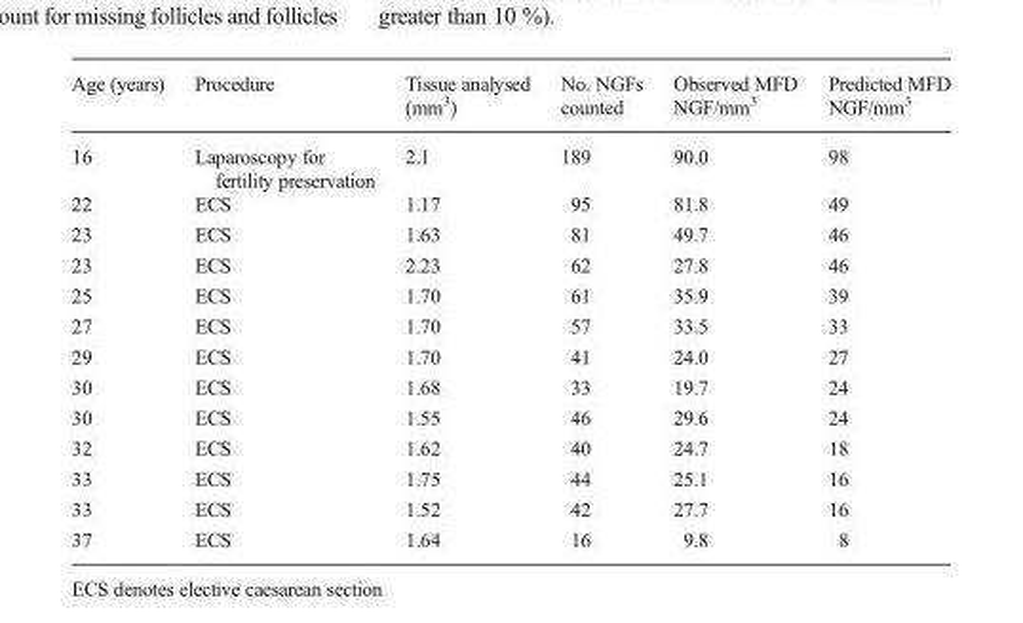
<table><thead><tr><td>Age (years)</td><td>Procedure</td><td>Tissue analysed (mm<sup>3</sup>)</td><td>No. NGFs counted</td><td>Observed MFD NGF/mm<sup>3</sup></td><td>Predicted MFD NGF/mm<sup>3</sup></td></tr></thead><tbody><tr><td>16</td><td>Laparoscopy for fertility preservation</td><td>2.1</td><td>189</td><td>90.0</td><td>98</td></tr><tr><td>22</td><td>ECS</td><td>1.17</td><td>95</td><td>81.8</td><td>49</td></tr><tr><td>23</td><td>ECS</td><td>1.63</td><td>81</td><td>49.7</td><td>46</td></tr><tr><td>23</td><td>ECS</td><td>2.23</td><td>62</td><td>27.8</td><td>46</td></tr><tr><td>25</td><td>ECS</td><td>1.70</td><td>61</td><td>35.9</td><td>39</td></tr><tr><td>27</td><td>ECS</td><td>1.70</td><td>57</td><td>33.5</td><td>33</td></tr><tr><td>29</td><td>ECS</td><td>1.70</td><td>41</td><td>24.0</td><td>27</td></tr><tr><td>30</td><td>ECS</td><td>1.68</td><td>33</td><td>19.7</td><td>24</td></tr><tr><td>30</td><td>ECS</td><td>1.55</td><td>46</td><td>29.6</td><td>24</td></tr><tr><td>32</td><td>ECS</td><td>1.62</td><td>40</td><td>24.7</td><td>18</td></tr><tr><td>33</td><td>ECS</td><td>1.75</td><td>44</td><td>25.1</td><td>16</td></tr><tr><td>33</td><td>ECS</td><td>1.52</td><td>42</td><td>27.7</td><td>16</td></tr><tr><td>37</td><td>ECS</td><td>1.64</td><td>16</td><td>9.8</td><td>8</td></tr></tbody></table>